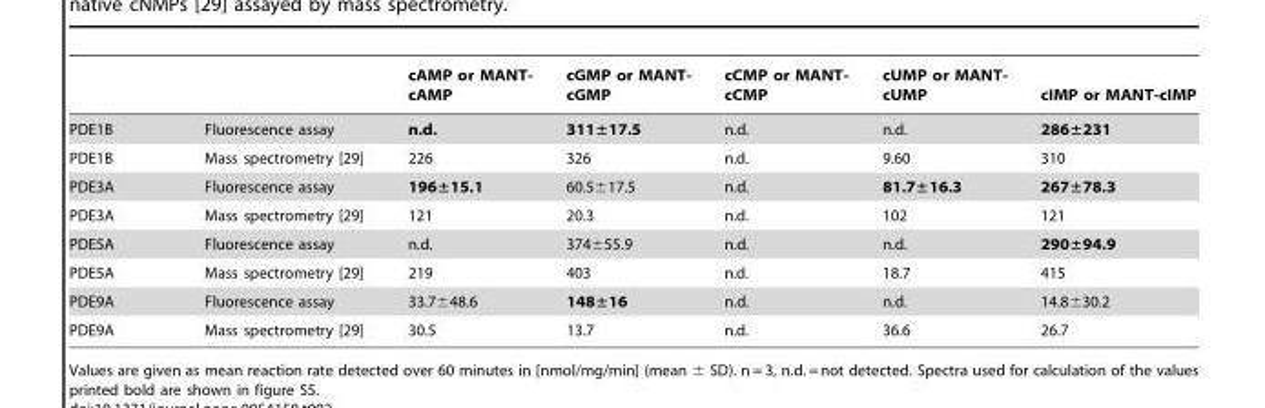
<table><thead><tr><td></td><td></td><td>cAMP or MANT- cAMP</td><td>cGMP or MANT- cGMP</td><td>cCMP or MANT- cCMP</td><td>cUMP or MANT- cUMP</td><td>cIMP or MANT-cIMP</td></tr></thead><tbody><tr><td>PDE1B</td><td>Fluorescence assay</td><td>n.d.</td><td>311±17.5</td><td>n.d.</td><td>n.d.</td><td>286±231</td></tr><tr><td>PDE1B</td><td>Mass spectrometry [29]</td><td>226</td><td>326</td><td>n.d.</td><td>9.60</td><td>310</td></tr><tr><td>PDE3A</td><td>Fluorescence assay</td><td>196±15.1</td><td>60.5±17.5</td><td>n.d.</td><td>81.7±16.3</td><td>267±78.3</td></tr><tr><td>PDE3A</td><td>Mass spectrometry [29]</td><td>121</td><td>20.3</td><td>n.d.</td><td>102</td><td>121</td></tr><tr><td>PDE5A</td><td>Fluorescence assay</td><td>n.d.</td><td>374±55.9</td><td>n.d.</td><td>n.d.</td><td>290±94.9</td></tr><tr><td>PDE5A</td><td>Mass spectrometry [29]</td><td>219</td><td>403</td><td>n.d.</td><td>18.7</td><td>415</td></tr><tr><td>PDE9A</td><td>Fluorescence assay</td><td>33.7±48.6</td><td>148±16</td><td>n.d.</td><td>n.d.</td><td>14.8±30.2</td></tr><tr><td>PDE9A</td><td>Mass spectrometry [29]</td><td>30.5</td><td>13.7</td><td>n.d.</td><td>36.6</td><td>26.7</td></tr></tbody></table>